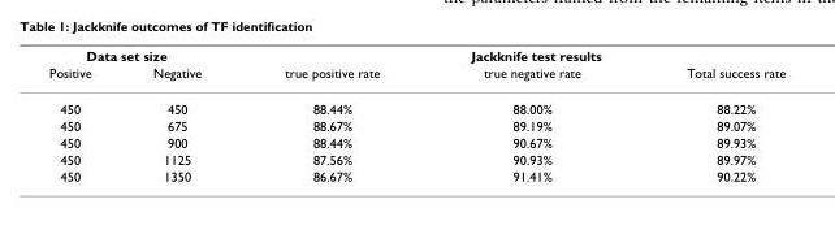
<table><thead><tr><td colspan="2">Data set size</td><td colspan="3">Jackknife test results</td></tr><tr><td>Positive</td><td>Negative</td><td>true positive rate</td><td>true negative rate</td><td>Total success rate</td></tr></thead><tbody><tr><td>450</td><td>450</td><td>88.44%</td><td>88.00%</td><td>88.22%</td></tr><tr><td>450</td><td>675</td><td>88.67%</td><td>89.19%</td><td>89.07%</td></tr><tr><td>450</td><td>900</td><td>88.44%</td><td>90.67%</td><td>89.93%</td></tr><tr><td>450</td><td>1125</td><td>87.56%</td><td>90.93%</td><td>89.97%</td></tr><tr><td>450</td><td>1350</td><td>86.67%</td><td>91.41%</td><td>90.22%</td></tr></tbody></table>